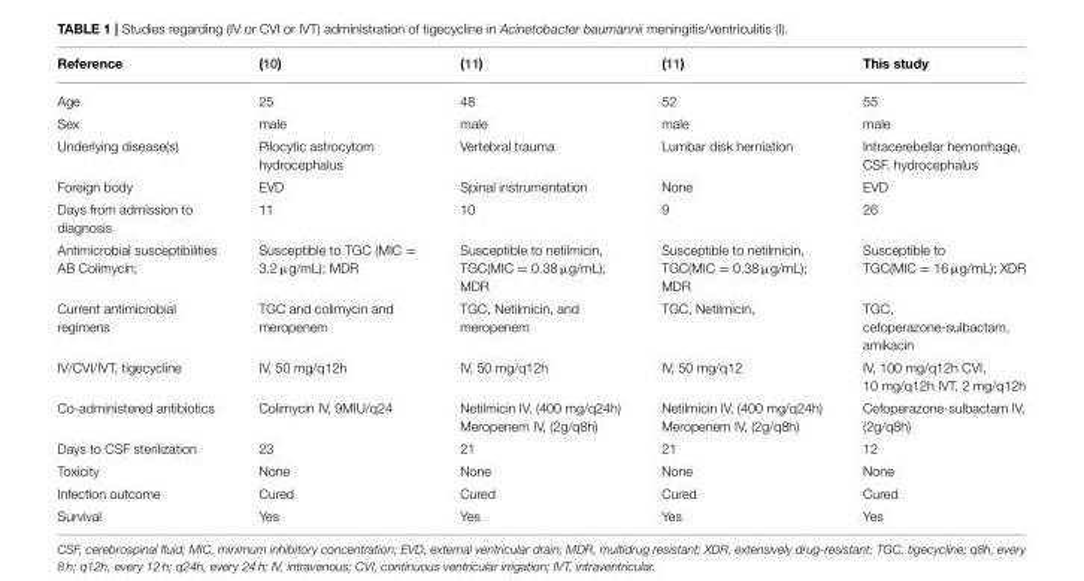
<table><thead><tr><td>Reference</td><td>(10)</td><td>(11)</td><td>(11)</td><td>This study</td></tr></thead><tbody><tr><td>Age</td><td>25</td><td>48</td><td>52</td><td>55</td></tr><tr><td>Sex</td><td>male</td><td>male</td><td>male</td><td>male</td></tr><tr><td>Underlying disease(s)</td><td>Pilocytic astrocytom hydrocephalus</td><td>Vertebral trauma</td><td>Lumbar disk herniation</td><td>Intracerebellar hemorrhage, CSF, hydrocephalus</td></tr><tr><td>Foreign body</td><td>EVD</td><td>Spinal instrumentation</td><td>None</td><td>EVD</td></tr><tr><td>Days from admission to diagnosis</td><td>11</td><td>10</td><td>9</td><td>26</td></tr><tr><td>Antimicrobial susceptibilities AB Colimycin;</td><td>Susceptible to TGC (MIC = 3.2 µg/mL); MDR</td><td>Susceptible to netilmicin, TGC(MIC = 0.38 µg/mL); MDR</td><td>Susceptible to netilmicin, TGC(MIC = 0.38 µg/mL); MDR</td><td>Susceptible to TGC(MIC = 16 µg/mL); XDR</td></tr><tr><td>Current antimicrobial regimens</td><td>TGC and colimycin and meropenem</td><td>TGC, Netilmicin, and meropenem</td><td>TGC, Netilmicin,</td><td>TGC, cefoperazone-sulbactam, amikacin</td></tr><tr><td>IV/CVI/IVT, tigecycline</td><td>IV, 50 mg/q12h</td><td>IV, 50 mg/q12h</td><td>IV, 50 mg/q12</td><td>IV, 100 mg/q12h CVI, 10 mg/q12h IVT, 2 mg/q12h</td></tr><tr><td>Co-administered antibiotics</td><td>Colimycin IV, 9MIU/q24</td><td>Netilmicin IV, (400 mg/q24h) Meropenem IV, (2g/q8h)</td><td>Netilmicin IV, (400 mg/q24h) Meropenem IV, (2g/q8h)</td><td>Cefoperazone-sulbactam IV, (2g/q8h)</td></tr><tr><td>Days to CSF sterilization</td><td>23</td><td>21</td><td>21</td><td>12</td></tr><tr><td>Toxicity</td><td>None</td><td>None</td><td>None</td><td>None</td></tr><tr><td>Infection outcome</td><td>Cured</td><td>Cured</td><td>Cured</td><td>Cured</td></tr><tr><td>Survival</td><td>Yes</td><td>Yes</td><td>Yes</td><td>Yes</td></tr></tbody></table>